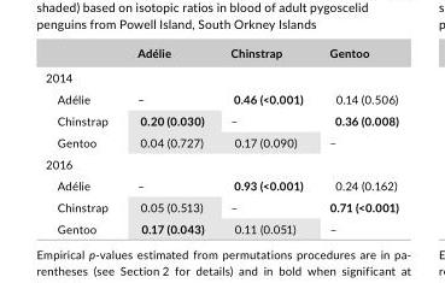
<table><thead><tr><td></td><td>Adélie</td><td>Chinstrap</td><td>Gentoo</td></tr></thead><tbody><tr><td colspan="4">2014</td></tr><tr><td>Adélie</td><td>–</td><td>0.46 (&lt;0.001)</td><td>0.14 (0.506)</td></tr><tr><td>Chinstrap</td><td>0.20 (0.030)</td><td>–</td><td>0.36 (0.008)</td></tr><tr><td>Gentoo</td><td>0.04 (0.727)</td><td>0.17 (0.090)</td><td>–</td></tr><tr><td colspan="4">2016</td></tr><tr><td>Adélie</td><td>–</td><td>0.93 (&lt;0.001)</td><td>0.24 (0.162)</td></tr><tr><td>Chinstrap</td><td>0.05 (0.513)</td><td>–</td><td>0.71 (&lt;0.001)</td></tr><tr><td>Gentoo</td><td>0.17 (0.043)</td><td>0.11 (0.051)</td><td>–</td></tr></tbody></table>